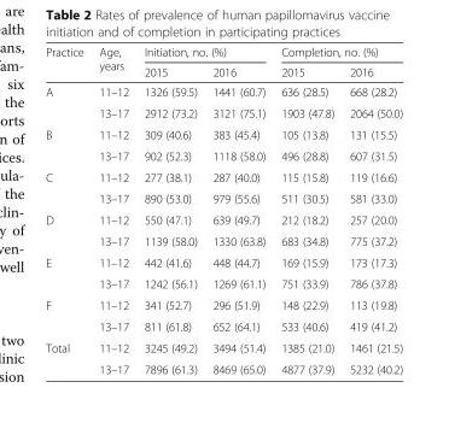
<table><thead><tr><td rowspan="2">Practice</td><td rowspan="2">Age, years</td><td colspan="2">Initiation, no. (%)</td><td colspan="2">Completion, no. (%)</td></tr><tr><td>2015</td><td>2016</td><td>2015</td><td>2016</td></tr></thead><tbody><tr><td rowspan="2">A</td><td>11–12</td><td>1326 (59.5)</td><td>1441 (60.7)</td><td>636 (28.5)</td><td>668 (28.2)</td></tr><tr><td>13–17</td><td>2912 (73.2)</td><td>3121 (75.1)</td><td>1903 (47.8)</td><td>2064 (50.0)</td></tr><tr><td rowspan="2">B</td><td>11–12</td><td>309 (40.6)</td><td>383 (45.4)</td><td>105 (13.8)</td><td>131 (15.5)</td></tr><tr><td>13–17</td><td>902 (52.3)</td><td>1118 (58.0)</td><td>496 (28.8)</td><td>607 (31.5)</td></tr><tr><td rowspan="2">C</td><td>11–12</td><td>277 (38.1)</td><td>287 (40.0)</td><td>115 (15.8)</td><td>119 (16.6)</td></tr><tr><td>13–17</td><td>890 (53.0)</td><td>979 (55.6)</td><td>511 (30.5)</td><td>581 (33.0)</td></tr><tr><td rowspan="2">D</td><td>11–12</td><td>550 (47.1)</td><td>639 (49.7)</td><td>212 (18.2)</td><td>257 (20.0)</td></tr><tr><td>13–17</td><td>1139 (58.0)</td><td>1330 (63.8)</td><td>683 (34.8)</td><td>775 (37.2)</td></tr><tr><td rowspan="2">E</td><td>11–12</td><td>442 (41.6)</td><td>448 (44.7)</td><td>169 (15.9)</td><td>173 (17.3)</td></tr><tr><td>13–17</td><td>1242 (56.1)</td><td>1269 (61.1)</td><td>751 (33.9)</td><td>786 (37.8)</td></tr><tr><td rowspan="2">F</td><td>11–12</td><td>341 (52.7)</td><td>296 (51.9)</td><td>148 (22.9)</td><td>113 (19.8)</td></tr><tr><td>13–17</td><td>811 (61.8)</td><td>652 (64.1)</td><td>533 (40.6)</td><td>419 (41.2)</td></tr><tr><td rowspan="2">Total</td><td>11–12</td><td>3245 (49.2)</td><td>3494 (51.4)</td><td>1385 (21.0)</td><td>1461 (21.5)</td></tr><tr><td>13–17</td><td>7896 (61.3)</td><td>8469 (65.0)</td><td>4877 (37.9)</td><td>5232 (40.2)</td></tr></tbody></table>